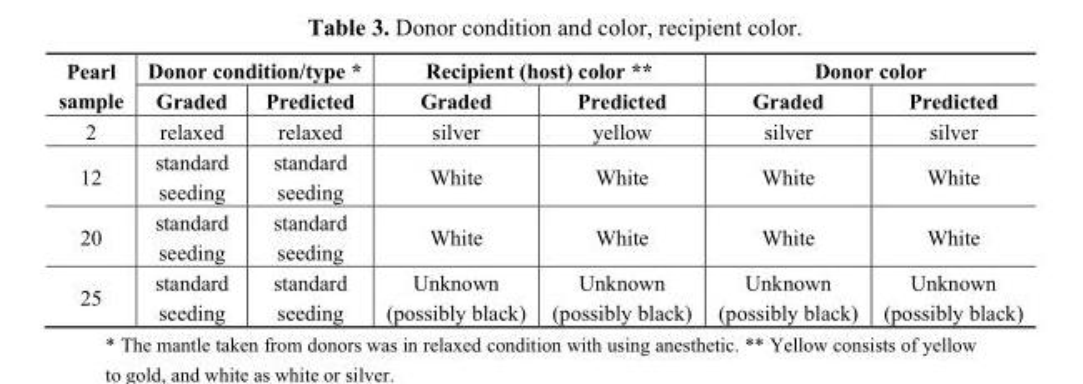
<table><thead><tr><td rowspan="2">Pearl sample</td><td colspan="2">Donor condition/type *</td><td colspan="2">Recipient (host) color **</td><td colspan="2">Donor color</td></tr><tr><td>Graded</td><td>Predicted</td><td>Graded</td><td>Predicted</td><td>Graded</td><td>Predicted</td></tr></thead><tbody><tr><td>2</td><td>relaxed</td><td>relaxed</td><td>silver</td><td>yellow</td><td>silver</td><td>silver</td></tr><tr><td>12</td><td>standard seeding</td><td>standard seeding</td><td>White</td><td>White</td><td>White</td><td>White</td></tr><tr><td>20</td><td>standard seeding</td><td>standard seeding</td><td>White</td><td>White</td><td>White</td><td>White</td></tr><tr><td>25</td><td>standard seeding</td><td>standard seeding</td><td>Unknown (possibly black)</td><td>Unknown (possibly black)</td><td>Unknown (possibly black)</td><td>Unknown (possibly black)</td></tr></tbody></table>